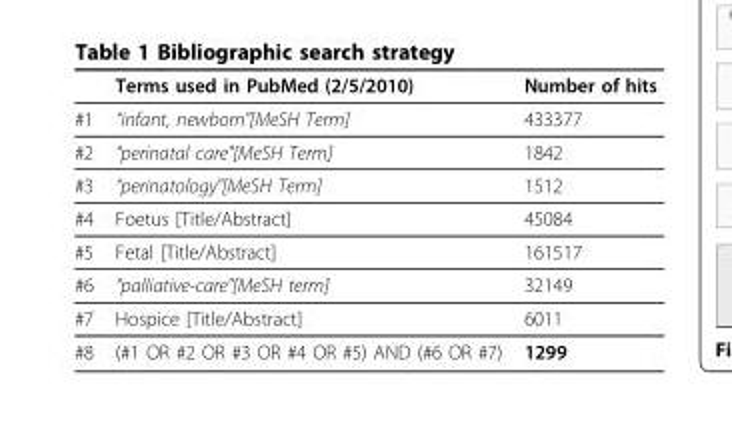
<table><thead><tr><td></td><td>Terms used in PubMed (2/5/2010)</td><td>Number of hits</td></tr></thead><tbody><tr><td>#1</td><td>“infant, newborn&quot;[MeSH Term]</td><td>433377</td></tr><tr><td>#2</td><td>“perinatal care&quot;[MeSH Term]</td><td>1842</td></tr><tr><td>#3</td><td>“perinatology&quot;[MeSH Term]</td><td>1512</td></tr><tr><td>#4</td><td>Foetus [Title/Abstract]</td><td>45084</td></tr><tr><td>#5</td><td>Fetal [Title/Abstract]</td><td>161517</td></tr><tr><td>#6</td><td>“palliative-care&quot;[MeSH term]</td><td>32149</td></tr><tr><td>#7</td><td>Hospice [Title/Abstract]</td><td>6011</td></tr><tr><td>#8</td><td>(#1 OR #2 OR #3 OR #4 OR #5) AND (#6 OR #7)</td><td>1299</td></tr></tbody></table>